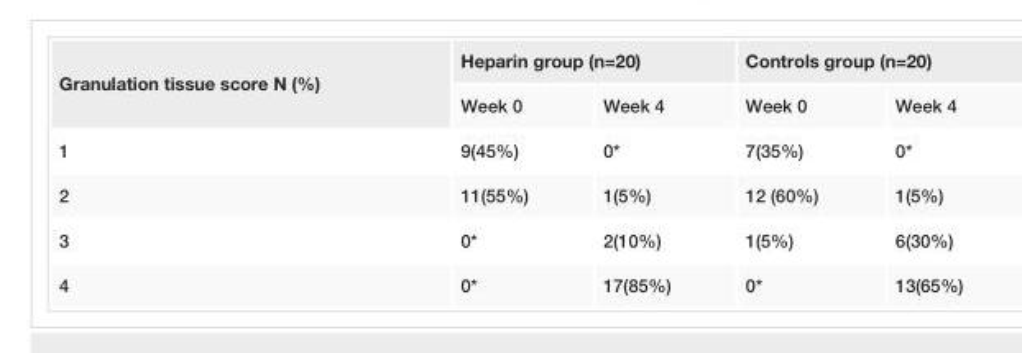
<table><tbody><tr><td rowspan="2">Granulation tissue score N (%)</td><td colspan="2">Heparin group (n=20)</td><td colspan="2">Controls group (n=20)</td></tr><tr><td>Week 0</td><td>Week 4</td><td>Week 0</td><td>Week 4</td></tr><tr><td>1</td><td>9(45%)</td><td>0*</td><td>7(35%)</td><td>0*</td></tr><tr><td>2</td><td>11(55%)</td><td>1(5%)</td><td>12 (60%)</td><td>1(5%)</td></tr><tr><td>3</td><td>0*</td><td>2(10%)</td><td>1(5%)</td><td>6(30%)</td></tr><tr><td>4</td><td>0*</td><td>17(85%)</td><td>0*</td><td>13(65%)</td></tr></tbody></table>